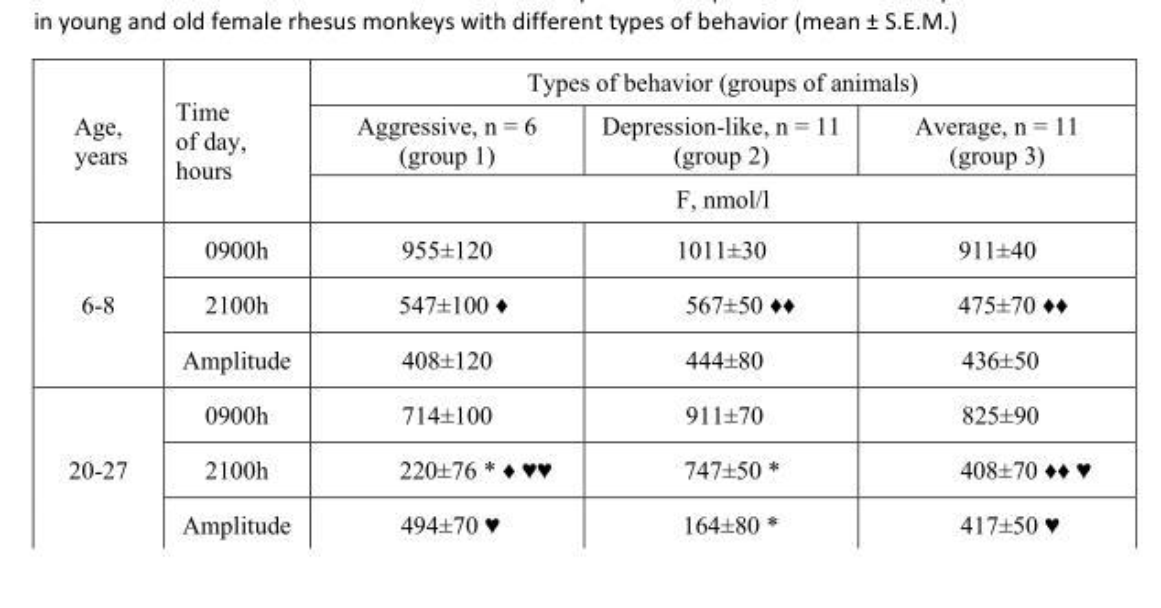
<table><thead><tr><td rowspan="3">Age, years</td><td rowspan="3">Time of day, hours</td><td colspan="3">Types of behavior (groups of animals)</td></tr><tr><td>Aggressive, n = 6 (group 1)</td><td>Depression-like, n = 11 (group 2)</td><td>Average, n = 11 (group 3)</td></tr><tr><td colspan="3">F, nmol/l</td></tr></thead><tbody><tr><td rowspan="3">6-8</td><td>0900h</td><td>955±120</td><td>1011±30</td><td>911±40</td></tr><tr><td>2100h</td><td>547±100 ♦</td><td>567±50 ♦♦</td><td>475±70 ♦♦</td></tr><tr><td>Amplitude</td><td>408±120</td><td>444±80</td><td>436±50</td></tr><tr><td rowspan="3">20-27</td><td>0900h</td><td>714±100</td><td>911±70</td><td>825±90</td></tr><tr><td>2100h</td><td>220±76 * ♦ ♥♥</td><td>747±50 *</td><td>408±70 ♦♦ ♥</td></tr><tr><td>Amplitude</td><td>494±70 ♥</td><td>164±80 *</td><td>417±50 ♥</td></tr></tbody></table>